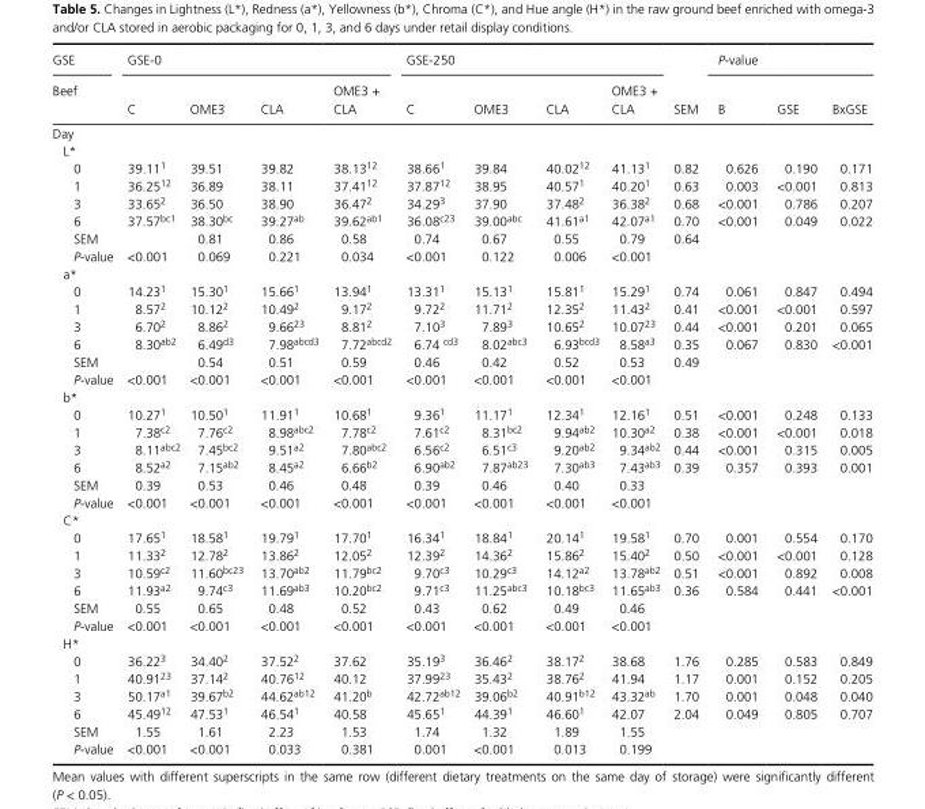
<table><thead><tr><td rowspan="2">GSE Beef</td><td colspan="4">GSE- 0</td><td colspan="4">GSE- 250</td><td rowspan="2">SEM</td><td colspan="3">P- value</td></tr><tr><td>C</td><td>OME3</td><td>CLA</td><td>OME3 + CLA</td><td>C</td><td>OME3</td><td>CLA</td><td>OME3 + CLA</td><td>B</td><td>GSE</td><td>BxGSE</td></tr></thead><tbody><tr><td colspan="13">Day</td></tr><tr><td colspan="13">L*</td></tr><tr><td>0</td><td>39.11<sup>1</sup></td><td>39.51</td><td>39.82</td><td>38.13<sup>12</sup></td><td>38.66<sup>1</sup></td><td>39.84</td><td>40.02<sup>12</sup></td><td>41.13<sup>1</sup></td><td>0.82</td><td>0.626</td><td>0.190</td><td>0.171</td></tr><tr><td>1</td><td>36.25<sup>12</sup></td><td>36.89</td><td>38.11</td><td>37.41<sup>12</sup></td><td>37.87<sup>12</sup></td><td>38.95</td><td>40.57<sup>1</sup></td><td>40.20<sup>1</sup></td><td>0.63</td><td>0.003</td><td>&lt;0.001</td><td>0.813</td></tr><tr><td>3</td><td>33.65<sup>2</sup></td><td>36.50</td><td>38.90</td><td>36.47<sup>2</sup></td><td>34.29<sup>3</sup></td><td>37.90</td><td>37.48<sup>2</sup></td><td>36.38<sup>2</sup></td><td>0.68</td><td>&lt;0.001</td><td>0.786</td><td>0.207</td></tr><tr><td>6</td><td>37.57<sup>bc1</sup></td><td>38.30<sup>bc</sup></td><td>39.27<sup>ab</sup></td><td>39.62<sup>ab1</sup></td><td>36.08<sup>c23</sup></td><td>39.00<sup>abc</sup></td><td>41.61<sup>a1</sup></td><td>42.07<sup>a1</sup></td><td>0.70</td><td>&lt;0.001</td><td>0.049</td><td>0.022</td></tr><tr><td>SEM</td><td></td><td>0.81</td><td>0.86</td><td>0.58</td><td>0.74</td><td>0.67</td><td>0.55</td><td>0.79</td><td>0.64</td><td></td><td></td><td></td></tr><tr><td>P- value</td><td>&lt;0.001</td><td>0.069</td><td>0.221</td><td>0.034</td><td>&lt;0.001</td><td>0.122</td><td>0.006</td><td>&lt;0.001</td><td></td><td></td><td></td><td></td></tr><tr><td colspan="13">a*</td></tr><tr><td>0</td><td>14.23<sup>1</sup></td><td>15.30<sup>1</sup></td><td>15.66<sup>1</sup></td><td>13.94<sup>1</sup></td><td>13.31<sup>1</sup></td><td>15.13<sup>1</sup></td><td>15.81<sup>1</sup></td><td>15.29<sup>1</sup></td><td>0.74</td><td>0.061</td><td>0.847</td><td>0.494</td></tr><tr><td>1</td><td>8.57<sup>2</sup></td><td>10.12<sup>2</sup></td><td>10.49<sup>2</sup></td><td>9.17<sup>2</sup></td><td>9.72<sup>2</sup></td><td>11.71<sup>2</sup></td><td>12.35<sup>2</sup></td><td>11.43<sup>2</sup></td><td>0.41</td><td>&lt;0.001</td><td>&lt;0.001</td><td>0.597</td></tr><tr><td>3</td><td>6.70<sup>2</sup></td><td>8.86<sup>2</sup></td><td>9.66<sup>23</sup></td><td>8.81<sup>2</sup></td><td>7.10<sup>3</sup></td><td>7.89<sup>3</sup></td><td>10.65<sup>2</sup></td><td>10.07<sup>23</sup></td><td>0.44</td><td>&lt;0.001</td><td>0.201</td><td>0.065</td></tr><tr><td>6</td><td>8.30<sup>ab2</sup></td><td>6.49<sup>d3</sup></td><td>7.98<sup>abcd3</sup></td><td>7.72<sup>abcd2</sup></td><td>6.74 <sup>cd3</sup></td><td>8.02<sup>abc3</sup></td><td>6.93<sup>bcd3</sup></td><td>8.58<sup>a3</sup></td><td>0.35</td><td>0.067</td><td>0.830</td><td>&lt;0.001</td></tr><tr><td>SEM</td><td></td><td>0.54</td><td>0.51</td><td>0.59</td><td>0.46</td><td>0.42</td><td>0.52</td><td>0.53</td><td>0.49</td><td></td><td></td><td></td></tr><tr><td>P- value</td><td>&lt;0.001</td><td>&lt;0.001</td><td>&lt;0.001</td><td>&lt;0.001</td><td>&lt;0.001</td><td>&lt;0.001</td><td>&lt;0.001</td><td>&lt;0.001</td><td></td><td></td><td></td><td></td></tr><tr><td colspan="13">b*</td></tr><tr><td>0</td><td>10.27<sup>1</sup></td><td>10.50<sup>1</sup></td><td>11.91<sup>1</sup></td><td>10.68<sup>1</sup></td><td>9.36<sup>1</sup></td><td>11.17<sup>1</sup></td><td>12.34<sup>1</sup></td><td>12.16<sup>1</sup></td><td>0.51</td><td>&lt;0.001</td><td>0.248</td><td>0.133</td></tr><tr><td>1</td><td>7.38<sup>c2</sup></td><td>7.76<sup>c2</sup></td><td>8.98<sup>abc2</sup></td><td>7.78<sup>c2</sup></td><td>7.61<sup>c2</sup></td><td>8.31<sup>bc2</sup></td><td>9.94<sup>ab2</sup></td><td>10.30<sup>a2</sup></td><td>0.38</td><td>&lt;0.001</td><td>&lt;0.001</td><td>0.018</td></tr><tr><td>3</td><td>8.11<sup>abc2</sup></td><td>7.45<sup>bc2</sup></td><td>9.51<sup>a2</sup></td><td>7.80<sup>abc2</sup></td><td>6.56<sup>c2</sup></td><td>6.51<sup>c3</sup></td><td>9.20<sup>ab2</sup></td><td>9.34<sup>ab2</sup></td><td>0.44</td><td>&lt;0.001</td><td>0.315</td><td>0.005</td></tr><tr><td>6</td><td>8.52<sup>a2</sup></td><td>7.15<sup>ab2</sup></td><td>8.45<sup>a2</sup></td><td>6.66<sup>b2</sup></td><td>6.90<sup>ab2</sup></td><td>7.87<sup>ab23</sup></td><td>7.30<sup>ab3</sup></td><td>7.43<sup>ab3</sup></td><td>0.39</td><td>0.357</td><td>0.393</td><td>0.001</td></tr><tr><td>SEM</td><td>0.39</td><td>0.53</td><td>0.46</td><td>0.48</td><td>0.39</td><td>0.46</td><td>0.40</td><td>0.33</td><td></td><td></td><td></td><td></td></tr><tr><td>P- value</td><td>&lt;0.001</td><td>&lt;0.001</td><td>&lt;0.001</td><td>&lt;0.001</td><td>&lt;0.001</td><td>&lt;0.001</td><td>&lt;0.001</td><td>&lt;0.001</td><td></td><td></td><td></td><td></td></tr><tr><td colspan="13">C*</td></tr><tr><td>0</td><td>17.65<sup>1</sup></td><td>18.58<sup>1</sup></td><td>19.79<sup>1</sup></td><td>17.70<sup>1</sup></td><td>16.34<sup>1</sup></td><td>18.84<sup>1</sup></td><td>20.14<sup>1</sup></td><td>19.58<sup>1</sup></td><td>0.70</td><td>0.001</td><td>0.554</td><td>0.170</td></tr><tr><td>1</td><td>11.33<sup>2</sup></td><td>12.78<sup>2</sup></td><td>13.86<sup>2</sup></td><td>12.05<sup>2</sup></td><td>12.39<sup>2</sup></td><td>14.36<sup>2</sup></td><td>15.86<sup>2</sup></td><td>15.40<sup>2</sup></td><td>0.50</td><td>&lt;0.001</td><td>&lt;0.001</td><td>0.128</td></tr><tr><td>3</td><td>10.59<sup>c2</sup></td><td>11.60<sup>bc23</sup></td><td>13.70<sup>ab2</sup></td><td>11.79<sup>bc2</sup></td><td>9.70<sup>c3</sup></td><td>10.29<sup>c3</sup></td><td>14.12<sup>a2</sup></td><td>13.78<sup>ab2</sup></td><td>0.51</td><td>&lt;0.001</td><td>0.892</td><td>0.008</td></tr><tr><td>6</td><td>11.93<sup>a2</sup></td><td>9.74<sup>c3</sup></td><td>11.69<sup>ab3</sup></td><td>10.20<sup>bc2</sup></td><td>9.71<sup>c3</sup></td><td>11.25<sup>abc3</sup></td><td>10.18<sup>bc3</sup></td><td>11.65<sup>ab3</sup></td><td>0.36</td><td>0.584</td><td>0.441</td><td>&lt;0.001</td></tr><tr><td>SEM</td><td>0.55</td><td>0.65</td><td>0.48</td><td>0.52</td><td>0.43</td><td>0.62</td><td>0.49</td><td>0.46</td><td></td><td></td><td></td><td></td></tr><tr><td>P- value</td><td>&lt;0.001</td><td>&lt;0.001</td><td>&lt;0.001</td><td>&lt;0.001</td><td>&lt;0.001</td><td>&lt;0.001</td><td>&lt;0.001</td><td>&lt;0.001</td><td></td><td></td><td></td><td></td></tr><tr><td colspan="13">H*</td></tr><tr><td>0</td><td>36.22<sup>3</sup></td><td>34.40<sup>2</sup></td><td>37.52<sup>2</sup></td><td>37.62</td><td>35.19<sup>3</sup></td><td>36.46<sup>2</sup></td><td>38.17<sup>2</sup></td><td>38.68</td><td>1.76</td><td>0.285</td><td>0.583</td><td>0.849</td></tr><tr><td>1</td><td>40.91<sup>23</sup></td><td>37.14<sup>2</sup></td><td>40.76<sup>12</sup></td><td>40.12</td><td>37.99<sup>23</sup></td><td>35.43<sup>2</sup></td><td>38.76<sup>2</sup></td><td>41.94</td><td>1.17</td><td>0.001</td><td>0.152</td><td>0.205</td></tr><tr><td>3</td><td>50.17<sup>a1</sup></td><td>39.67<sup>b2</sup></td><td>44.62<sup>ab12</sup></td><td>41.20<sup>b</sup></td><td>42.72<sup>ab12</sup></td><td>39.06<sup>b2</sup></td><td>40.91<sup>b12</sup></td><td>43.32<sup>ab</sup></td><td>1.70</td><td>0.001</td><td>0.048</td><td>0.040</td></tr><tr><td>6</td><td>45.49<sup>12</sup></td><td>47.53<sup>1</sup></td><td>46.54<sup>1</sup></td><td>40.58</td><td>45.65<sup>1</sup></td><td>44.39<sup>1</sup></td><td>46.60<sup>1</sup></td><td>42.07</td><td>2.04</td><td>0.049</td><td>0.805</td><td>0.707</td></tr><tr><td>SEM</td><td>1.55</td><td>1.61</td><td>2.23</td><td>1.53</td><td>1.74</td><td>1.32</td><td>1.89</td><td>1.55</td><td></td><td></td><td></td><td></td></tr><tr><td>P- value</td><td>&lt;0.001</td><td>&lt;0.001</td><td>0.033</td><td>0.381</td><td>0.001</td><td>&lt;0.001</td><td>0.013</td><td>0.199</td><td></td><td></td><td></td><td></td></tr></tbody></table>